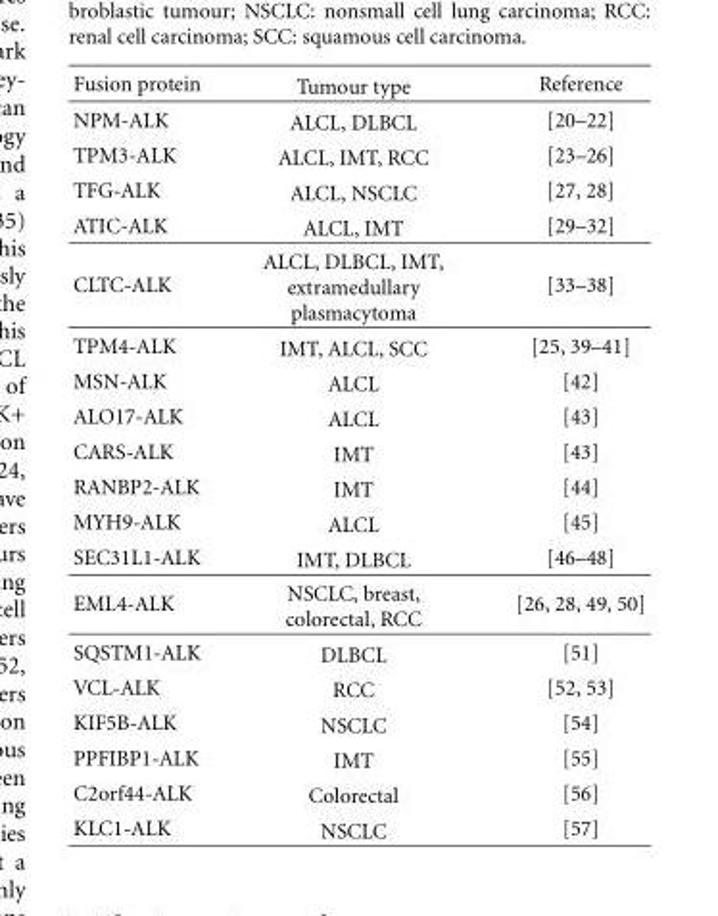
<table><thead><tr><td>Fusion protein</td><td>Tumour type</td><td>Reference</td></tr></thead><tbody><tr><td>NPM-ALK</td><td>ALCL, DLBCL</td><td>[20–22]</td></tr><tr><td>TPM3-ALK</td><td>ALCL, IMT, RCC</td><td>[23–26]</td></tr><tr><td>TFG-ALK</td><td>ALCL, NSCLC</td><td>[27, 28]</td></tr><tr><td>ATIC-ALK</td><td>ALCL, IMT</td><td>[29–32]</td></tr><tr><td>CLTC-ALK</td><td>ALCL, DLBCL, IMT, extramedullary plasmacytoma</td><td>[33–38]</td></tr><tr><td>TPM4-ALK</td><td>IMT, ALCL, SCC</td><td>[25, 39–41]</td></tr><tr><td>MSN-ALK</td><td>ALCL</td><td>[42]</td></tr><tr><td>ALO17-ALK</td><td>ALCL</td><td>[43]</td></tr><tr><td>CARS-ALK</td><td>IMT</td><td>[43]</td></tr><tr><td>RANBP2-ALK</td><td>IMT</td><td>[44]</td></tr><tr><td>MYH9-ALK</td><td>ALCL</td><td>[45]</td></tr><tr><td>SEC31L1-ALK</td><td>IMT, DLBCL</td><td>[46–48]</td></tr><tr><td>EML4-ALK</td><td>NSCLC, breast, colorectal, RCC</td><td>[26, 28, 49, 50]</td></tr><tr><td>SQSTM1-ALK</td><td>DLBCL</td><td>[51]</td></tr><tr><td>VCL-ALK</td><td>RCC</td><td>[52, 53]</td></tr><tr><td>KIF5B-ALK</td><td>NSCLC</td><td>[54]</td></tr><tr><td>PPFIBP1-ALK</td><td>IMT</td><td>[55]</td></tr><tr><td>C2orf44-ALK</td><td>Colorectal</td><td>[56]</td></tr><tr><td>KLC1-ALK</td><td>NSCLC</td><td>[57]</td></tr></tbody></table>